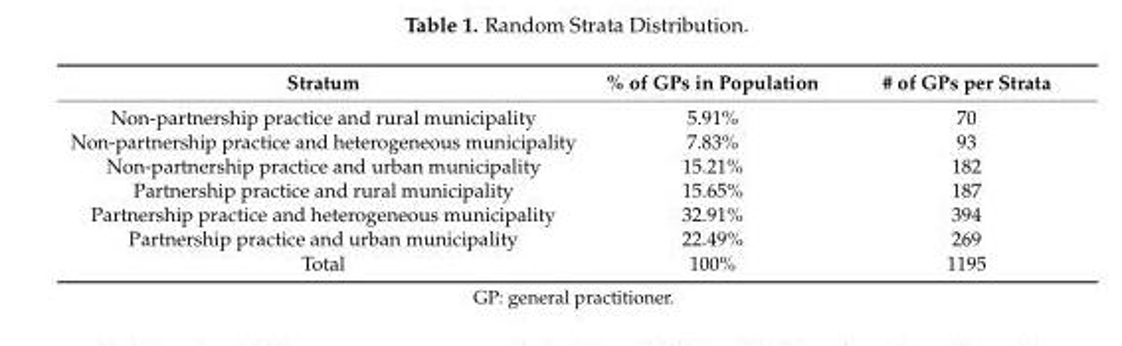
<table><thead><tr><td>Stratum</td><td>% of GPs in Population</td><td># of GPs per Strata</td></tr></thead><tbody><tr><td>Non-partnership practice and rural municipality</td><td>5.91%</td><td>70</td></tr><tr><td>Non-partnership practice and heterogeneous municipality</td><td>7.83%</td><td>93</td></tr><tr><td>Non-partnership practice and urban municipality</td><td>15.21%</td><td>182</td></tr><tr><td>Partnership practice and rural municipality</td><td>15.65%</td><td>187</td></tr><tr><td>Partnership practice and heterogeneous municipality</td><td>32.91%</td><td>394</td></tr><tr><td>Partnership practice and urban municipality</td><td>22.49%</td><td>269</td></tr><tr><td>Total</td><td>100%</td><td>1195</td></tr></tbody></table>